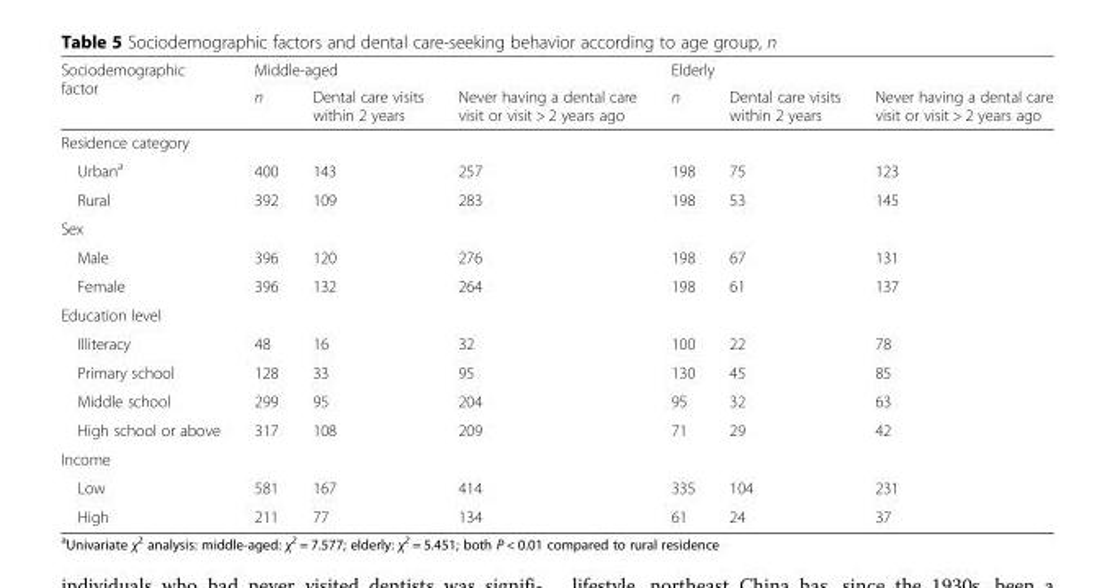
<table><thead><tr><td rowspan="2">Sociodemographic factor</td><td colspan="3">Middle-aged</td><td colspan="3">Elderly</td></tr><tr><td>n</td><td>Dental care visits within 2 years</td><td>Never having a dental care visit or visit &gt; 2 years ago</td><td>n</td><td>Dental care visits within 2 years</td><td>Never having a dental care visit or visit &gt; 2 years ago</td></tr></thead><tbody><tr><td colspan="7">Residence category</td></tr><tr><td>Urban<sup>a</sup></td><td>400</td><td>143</td><td>257</td><td>198</td><td>75</td><td>123</td></tr><tr><td>Rural</td><td>392</td><td>109</td><td>283</td><td>198</td><td>53</td><td>145</td></tr><tr><td colspan="7">Sex</td></tr><tr><td>Male</td><td>396</td><td>120</td><td>276</td><td>198</td><td>67</td><td>131</td></tr><tr><td>Female</td><td>396</td><td>132</td><td>264</td><td>198</td><td>61</td><td>137</td></tr><tr><td colspan="7">Education level</td></tr><tr><td>Illiteracy</td><td>48</td><td>16</td><td>32</td><td>100</td><td>22</td><td>78</td></tr><tr><td>Primary school</td><td>128</td><td>33</td><td>95</td><td>130</td><td>45</td><td>85</td></tr><tr><td>Middle school</td><td>299</td><td>95</td><td>204</td><td>95</td><td>32</td><td>63</td></tr><tr><td>High school or above</td><td>317</td><td>108</td><td>209</td><td>71</td><td>29</td><td>42</td></tr><tr><td colspan="7">Income</td></tr><tr><td>Low</td><td>581</td><td>167</td><td>414</td><td>335</td><td>104</td><td>231</td></tr><tr><td>High</td><td>211</td><td>77</td><td>134</td><td>61</td><td>24</td><td>37</td></tr></tbody></table>